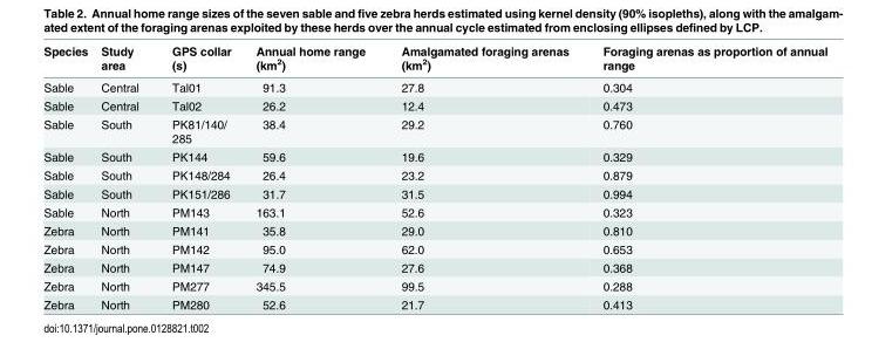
<table><thead><tr><td>Species</td><td>Study area</td><td>GPS collar (s)</td><td>Annual home range (km<sup>2</sup>)</td><td>Amalgamated foraging arenas (km<sup>2</sup>)</td><td>Foraging arenas as proportion of annual range</td></tr></thead><tbody><tr><td>Sable</td><td>Central</td><td>Tal01</td><td>91.3</td><td>27.8</td><td>0.304</td></tr><tr><td>Sable</td><td>Central</td><td>Tal02</td><td>26.2</td><td>12.4</td><td>0.473</td></tr><tr><td>Sable</td><td>South</td><td>PK81/140/ 285</td><td>38.4</td><td>29.2</td><td>0.760</td></tr><tr><td>Sable</td><td>South</td><td>PK144</td><td>59.6</td><td>19.6</td><td>0.329</td></tr><tr><td>Sable</td><td>South</td><td>PK148/284</td><td>26.4</td><td>23.2</td><td>0.879</td></tr><tr><td>Sable</td><td>South</td><td>PK151/286</td><td>31.7</td><td>31.5</td><td>0.994</td></tr><tr><td>Sable</td><td>North</td><td>PM143</td><td>163.1</td><td>52.6</td><td>0.323</td></tr><tr><td>Zebra</td><td>North</td><td>PM141</td><td>35.8</td><td>29.0</td><td>0.810</td></tr><tr><td>Zebra</td><td>North</td><td>PM142</td><td>95.0</td><td>62.0</td><td>0.653</td></tr><tr><td>Zebra</td><td>North</td><td>PM147</td><td>74.9</td><td>27.6</td><td>0.368</td></tr><tr><td>Zebra</td><td>North</td><td>PM277</td><td>345.5</td><td>99.5</td><td>0.288</td></tr><tr><td>Zebra</td><td>North</td><td>PM280</td><td>52.6</td><td>21.7</td><td>0.413</td></tr></tbody></table>